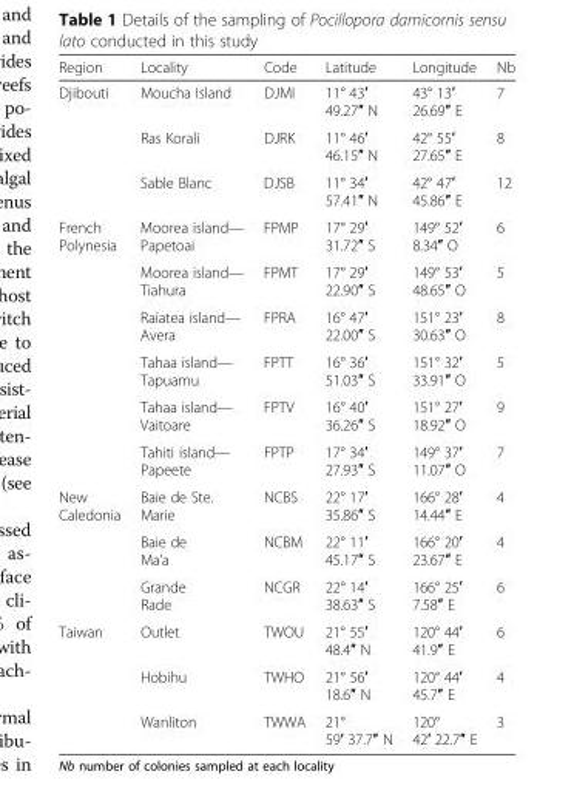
<table><thead><tr><td>Region</td><td>Locality</td><td>Code</td><td>Latitude</td><td>Longitude</td><td>Nb</td></tr></thead><tbody><tr><td rowspan="3">Djibouti</td><td>Moucha Island</td><td>DJMI</td><td>11° 43′ 49.27″ N</td><td>43° 13′ 26.69″ E</td><td>7</td></tr><tr><td>Ras Korali</td><td>DJRK</td><td>11° 46′ 46.15″ N</td><td>42° 55′ 27.65″ E</td><td>8</td></tr><tr><td>Sable Blanc</td><td>DJSB</td><td>11° 34′ 57.41″ N</td><td>42° 47′ 45.86″ E</td><td>12</td></tr><tr><td rowspan="6">French Polynesia</td><td>Moorea island— Papetoai</td><td>FPMP</td><td>17° 29′ 31.72″ S</td><td>149° 52′ 8.34″ O</td><td>6</td></tr><tr><td>Moorea island— Tiahura</td><td>FPMT</td><td>17° 29′ 22.90″ S</td><td>149° 53′ 48.65″ O</td><td>5</td></tr><tr><td>Raiatea island— Avera</td><td>FPRA</td><td>16° 47′ 22.00″ S</td><td>151° 23′ 30.63″ O</td><td>8</td></tr><tr><td>Tahaa island— Tapuamu</td><td>FPTT</td><td>16° 36′ 51.03″ S</td><td>151° 32′ 33.91″ O</td><td>5</td></tr><tr><td>Tahaa island— Vaitoare</td><td>FPTV</td><td>16° 40′ 36.26″ S</td><td>151° 27′ 18.92″ O</td><td>9</td></tr><tr><td>Tahiti island— Papeete</td><td>FPTP</td><td>17° 34′ 27.93″ S</td><td>149° 37′ 11.07″ O</td><td>7</td></tr><tr><td rowspan="3">New Caledonia</td><td>Baie de Ste. Marie</td><td>NCBS</td><td>22° 17′ 35.86″ S</td><td>166° 28′ 14.44″ E</td><td>4</td></tr><tr><td>Baie de Ma’a</td><td>NCBM</td><td>22° 11′ 45.17″ S</td><td>166° 20′ 23.67″ E</td><td>4</td></tr><tr><td>Grande Rade</td><td>NCGR</td><td>22° 14′ 38.63″ S</td><td>166° 25′ 7.58″ E</td><td>6</td></tr><tr><td rowspan="3">Taiwan</td><td>Outlet</td><td>TWOU</td><td>21° 55′ 48.4″ N</td><td>120° 44′ 41.9″ E</td><td>6</td></tr><tr><td>Hobihu</td><td>TWHO</td><td>21° 56′ 18.6″ N</td><td>120° 44′ 45.7″ E</td><td>4</td></tr><tr><td>Wanliton</td><td>TWWA</td><td>21° 59′ 37.7″ N</td><td>120° 42′ 22.7″ E</td><td>3</td></tr></tbody></table>